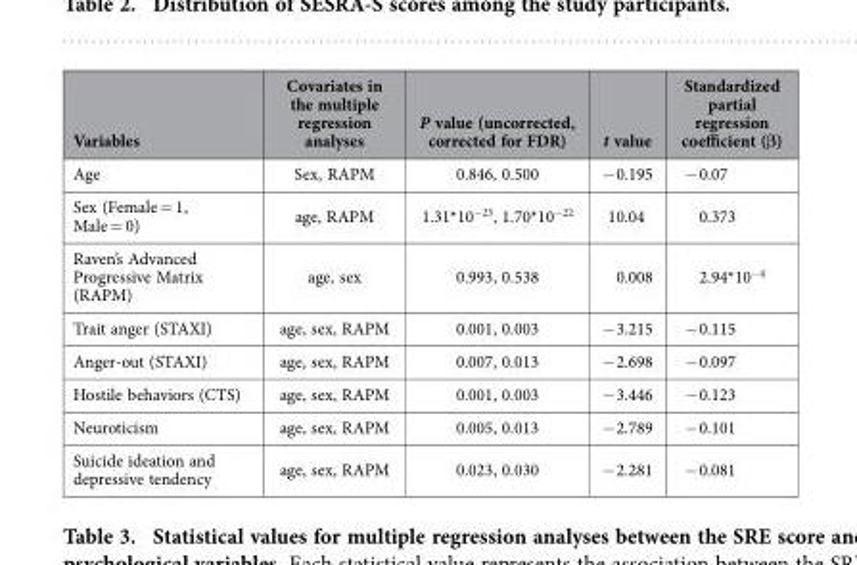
<table><thead><tr><td>Variables</td><td>Covariates in the multiple regression analyses</td><td>P value (uncorrected, corrected for FDR)</td><td>t value</td><td>Standardized partial regression coefficient (β)</td></tr></thead><tbody><tr><td>Age</td><td>Sex, RAPM</td><td>0.846, 0.500</td><td>− 0.195</td><td>− 0.07</td></tr><tr><td>Sex (Female = 1, Male = 0)</td><td>age, RAPM</td><td>1.31*10<sup>−23</sup>, 1.70*10<sup>−22</sup></td><td>10.04</td><td>0.373</td></tr><tr><td>Raven’s Advanced Progressive Matrix (RAPM)</td><td>age, sex</td><td>0.993, 0.538</td><td>0.008</td><td>2.94*10<sup>−4</sup></td></tr><tr><td>Trait anger (STAXI)</td><td>age, sex, RAPM</td><td>0.001, 0.003</td><td>− 3.215</td><td>− 0.115</td></tr><tr><td>Anger-out (STAXI)</td><td>age, sex, RAPM</td><td>0.007, 0.013</td><td>− 2.698</td><td>− 0.097</td></tr><tr><td>Hostile behaviors (CTS)</td><td>age, sex, RAPM</td><td>0.001, 0.003</td><td>− 3.446</td><td>− 0.123</td></tr><tr><td>Neuroticism</td><td>age, sex, RAPM</td><td>0.005, 0.013</td><td>− 2.789</td><td>− 0.101</td></tr><tr><td>Suicide ideation and depressive tendency</td><td>age, sex, RAPM</td><td>0.023, 0.030</td><td>− 2.281</td><td>− 0.081</td></tr></tbody></table>